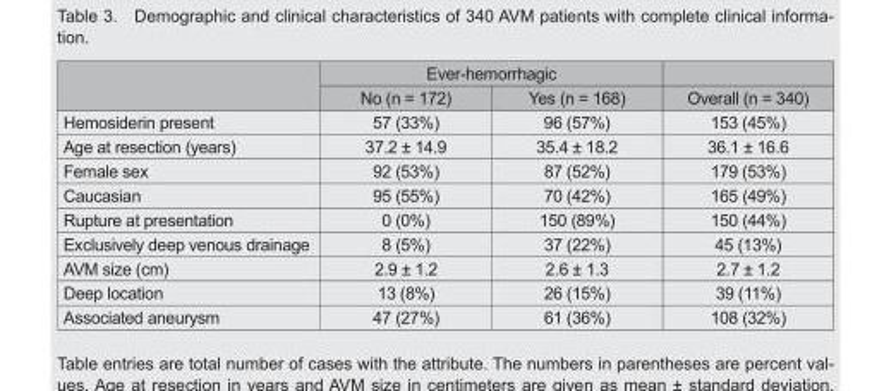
<table><thead><tr><td rowspan="2"></td><td colspan="2">Ever-hemorrhagic</td><td rowspan="2">Overall (n = 340)</td></tr><tr><td>No (n = 172)</td><td>Yes (n = 168)</td></tr></thead><tbody><tr><td>Hemosiderin present</td><td>57 (33%)</td><td>96 (57%)</td><td>153 (45%)</td></tr><tr><td>Age at resection (years)</td><td>37.2 ± 14.9</td><td>35.4 ± 18.2</td><td>36.1 ± 16.6</td></tr><tr><td>Female sex</td><td>92 (53%)</td><td>87 (52%)</td><td>179 (53%)</td></tr><tr><td>Caucasian</td><td>95 (55%)</td><td>70 (42%)</td><td>165 (49%)</td></tr><tr><td>Rupture at presentation</td><td>0 (0%)</td><td>150 (89%)</td><td>150 (44%)</td></tr><tr><td>Exclusively deep venous drainage</td><td>8 (5%)</td><td>37 (22%)</td><td>45 (13%)</td></tr><tr><td>AVM size (cm)</td><td>2.9 ± 1.2</td><td>2.6 ± 1.3</td><td>2.7 ± 1.2</td></tr><tr><td>Deep location</td><td>13 (8%)</td><td>26 (15%)</td><td>39 (11%)</td></tr><tr><td>Associated aneurysm</td><td>47 (27%)</td><td>61 (36%)</td><td>108 (32%)</td></tr></tbody></table>